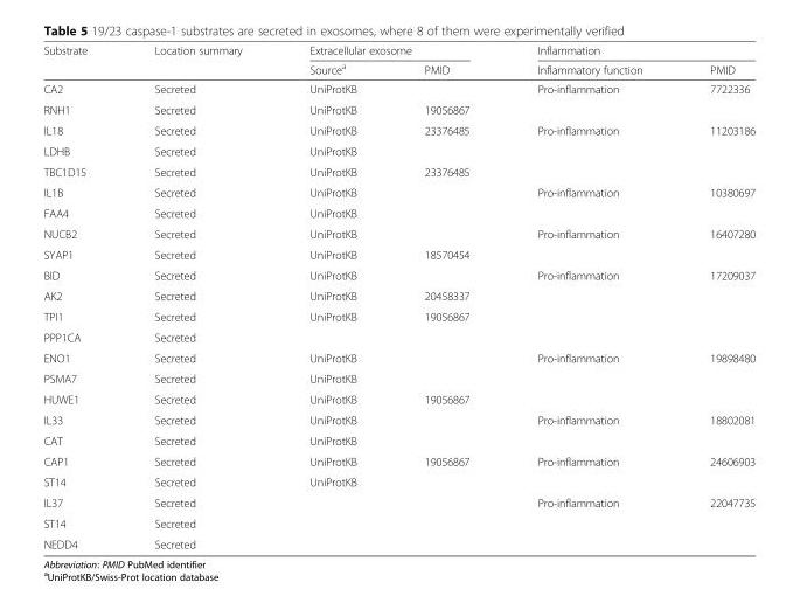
<table><thead><tr><td rowspan="2">Substrate</td><td rowspan="2">Location summary</td><td colspan="2">Extracellular exosome</td><td colspan="2">Inflammation</td></tr><tr><td>Source<sup>a</sup></td><td>PMID</td><td>Inflammatory function</td><td>PMID</td></tr></thead><tbody><tr><td>CA2</td><td>Secreted</td><td>UniProtKB</td><td></td><td>Pro-inflammation</td><td>7722336</td></tr><tr><td>RNH1</td><td>Secreted</td><td>UniProtKB</td><td>19056867</td><td></td><td></td></tr><tr><td>IL18</td><td>Secreted</td><td>UniProtKB</td><td>23376485</td><td>Pro-inflammation</td><td>11203186</td></tr><tr><td>LDHB</td><td>Secreted</td><td>UniProtKB</td><td></td><td></td><td></td></tr><tr><td>TBC1D15</td><td>Secreted</td><td>UniProtKB</td><td>23376485</td><td></td><td></td></tr><tr><td>IL1B</td><td>Secreted</td><td>UniProtKB</td><td></td><td>Pro-inflammation</td><td>10380697</td></tr><tr><td>FAA4</td><td>Secreted</td><td>UniProtKB</td><td></td><td></td><td></td></tr><tr><td>NUCB2</td><td>Secreted</td><td>UniProtKB</td><td></td><td>Pro-inflammation</td><td>16407280</td></tr><tr><td>SYAP1</td><td>Secreted</td><td>UniProtKB</td><td>18570454</td><td></td><td></td></tr><tr><td>BID</td><td>Secreted</td><td>UniProtKB</td><td></td><td>Pro-inflammation</td><td>17209037</td></tr><tr><td>AK2</td><td>Secreted</td><td>UniProtKB</td><td>20458337</td><td></td><td></td></tr><tr><td>TPI1</td><td>Secreted</td><td>UniProtKB</td><td>19056867</td><td></td><td></td></tr><tr><td>PPP1CA</td><td>Secreted</td><td></td><td></td><td></td><td></td></tr><tr><td>ENO1</td><td>Secreted</td><td>UniProtKB</td><td></td><td>Pro-inflammation</td><td>19898480</td></tr><tr><td>PSMA7</td><td>Secreted</td><td>UniProtKB</td><td></td><td></td><td></td></tr><tr><td>HUWE1</td><td>Secreted</td><td>UniProtKB</td><td>19056867</td><td></td><td></td></tr><tr><td>IL33</td><td>Secreted</td><td>UniProtKB</td><td></td><td>Pro-inflammation</td><td>18802081</td></tr><tr><td>CAT</td><td>Secreted</td><td>UniProtKB</td><td></td><td></td><td></td></tr><tr><td>CAP1</td><td>Secreted</td><td>UniProtKB</td><td>19056867</td><td>Pro-inflammation</td><td>24606903</td></tr><tr><td>ST14</td><td>Secreted</td><td>UniProtKB</td><td></td><td></td><td></td></tr><tr><td>IL37</td><td>Secreted</td><td></td><td></td><td>Pro-inflammation</td><td>22047735</td></tr><tr><td>ST14</td><td>Secreted</td><td></td><td></td><td></td><td></td></tr><tr><td>NEDD4</td><td>Secreted</td><td></td><td></td><td></td><td></td></tr></tbody></table>